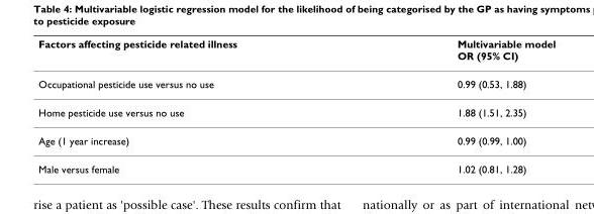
<table><thead><tr><td>Factors affecting pesticide related illness</td><td>Multivariable model OR (95% CI)</td></tr></thead><tbody><tr><td>Occupational pesticide use versus no use</td><td>0.99 (0.53, 1.88)</td></tr><tr><td>Home pesticide use versus no use</td><td>1.88 (1.51, 2.35)</td></tr><tr><td>Age (1 year increase)</td><td>0.99 (0.99, 1.00)</td></tr><tr><td>Male versus female</td><td>1.02 (0.81, 1.28)</td></tr></tbody></table>